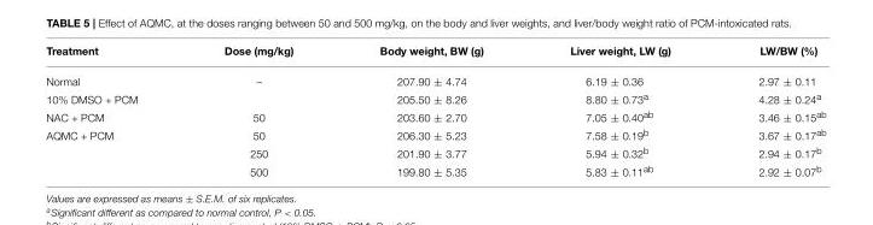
<table><thead><tr><td>Treatment</td><td>Dose (mg/kg)</td><td>Body weight, BW (g)</td><td>Liver weight, LW (g)</td><td>LW/BW (%)</td></tr></thead><tbody><tr><td>Normal</td><td>–</td><td>207.90 ± 4.74</td><td>6.19 ± 0.36</td><td>2.97 ± 0.11</td></tr><tr><td>10% DMSO + PCM</td><td></td><td>205.50 ± 8.26</td><td>8.80 ± 0.73<sup>a</sup></td><td>4.28 ± 0.24<sup>a</sup></td></tr><tr><td>NAC + PCM</td><td>50</td><td>203.60 ± 2.70</td><td>7.05 ± 0.40<sup>ab</sup></td><td>3.46 ± 0.15<sup>ab</sup></td></tr><tr><td rowspan="3">AQMC + PCM</td><td>50</td><td>206.30 ± 5.23</td><td>7.58 ± 0.19<sup>b</sup></td><td>3.67 ± 0.17<sup>ab</sup></td></tr><tr><td>250</td><td>201.90 ± 3.77</td><td>5.94 ± 0.32<sup>b</sup></td><td>2.94 ± 0.17<sup>b</sup></td></tr><tr><td>500</td><td>199.80 ± 5.35</td><td>5.83 ± 0.11<sup>ab</sup></td><td>2.92 ± 0.07<sup>b</sup></td></tr></tbody></table>